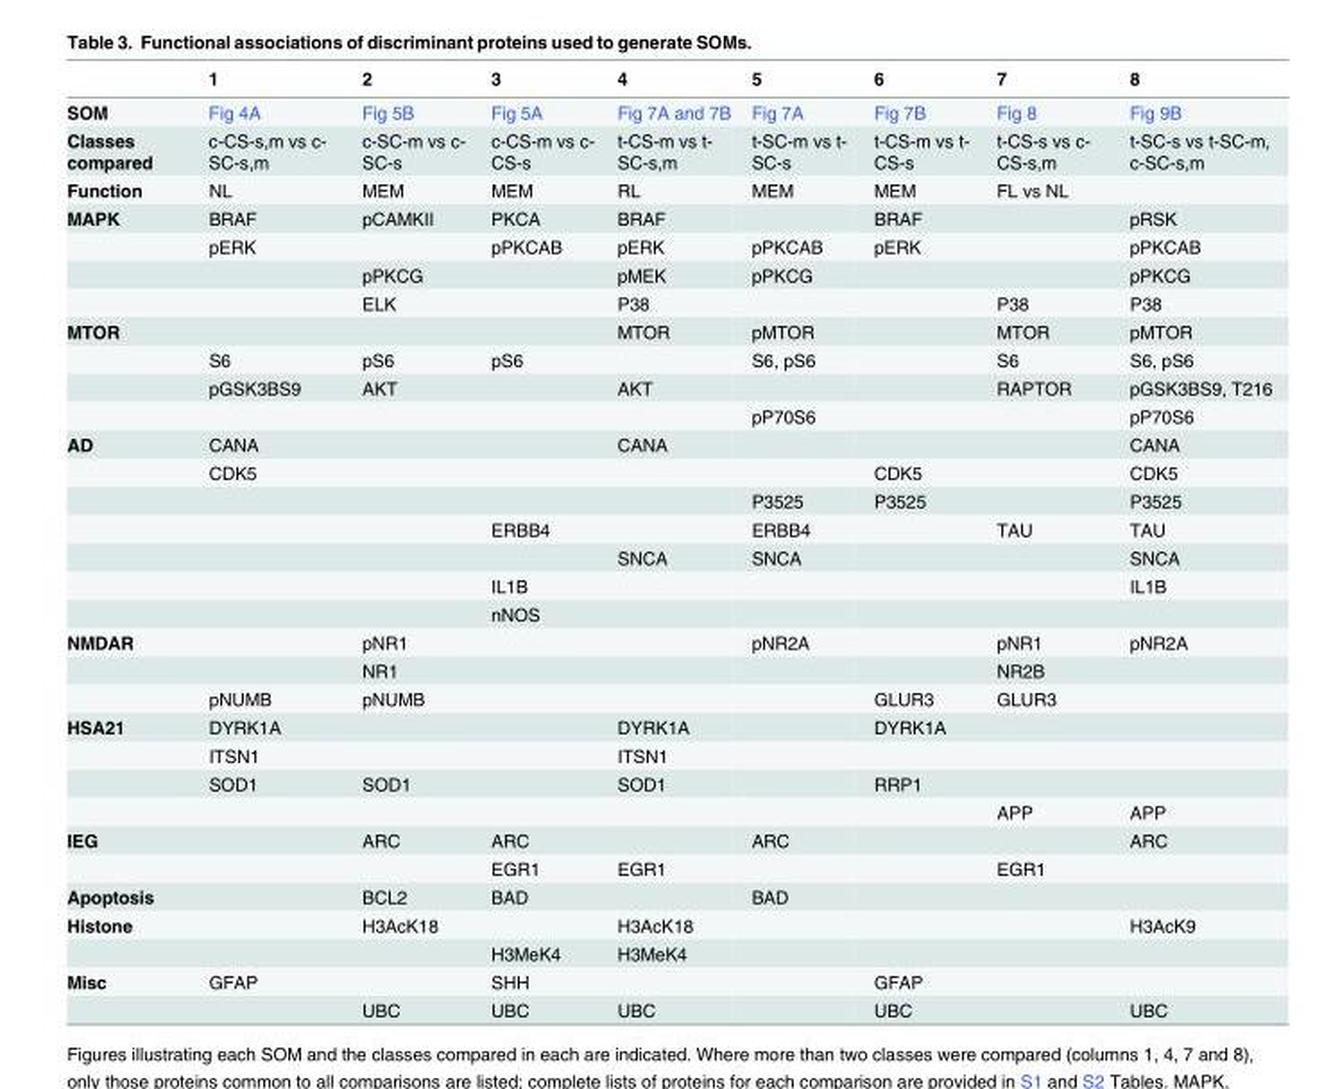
<table><thead><tr><td></td><td>1</td><td>2</td><td>3</td><td>4</td><td>5</td><td>6</td><td>7</td><td>8</td></tr></thead><tbody><tr><td>SOM</td><td>Fig 4A</td><td>Fig 5B</td><td>Fig 5A</td><td>Fig 7A and 7B</td><td>Fig 7A</td><td>Fig 7B</td><td>Fig 8</td><td>Fig 9B</td></tr><tr><td>Classes compared</td><td>c-CS-s,m vs c- SC-s,m</td><td>c-SC-m vs c- SC-s</td><td>c-CS-m vs c- CS-s</td><td>t-CS-m vs t- SC-s,m</td><td>t-SC-m vs t- SC-s</td><td>t-CS-m vs t- CS-s</td><td>t-CS-s vs c- CS-s,m</td><td>t-SC-s vs t-SC-m, c-SC-s,m</td></tr><tr><td>Function</td><td>NL</td><td>MEM</td><td>MEM</td><td>RL</td><td>MEM</td><td>MEM</td><td>FL vs NL</td><td></td></tr><tr><td rowspan="4">MAPK</td><td>BRAF</td><td>pCAMKII</td><td>PKCA</td><td>BRAF</td><td></td><td>BRAF</td><td></td><td>pRSK</td></tr><tr><td>pERK</td><td></td><td>pPKCAB</td><td>pERK</td><td>pPKCAB</td><td>pERK</td><td></td><td>pPKCAB</td></tr><tr><td></td><td>pPKCG</td><td></td><td>pMEK</td><td>pPKCG</td><td></td><td></td><td>pPKCG</td></tr><tr><td></td><td>ELK</td><td></td><td>P38</td><td></td><td></td><td>P38</td><td>P38</td></tr><tr><td rowspan="4">MTOR</td><td></td><td></td><td></td><td>MTOR</td><td>pMTOR</td><td></td><td>MTOR</td><td>pMTOR</td></tr><tr><td>S6</td><td>pS6</td><td>pS6</td><td></td><td>S6, pS6</td><td></td><td>S6</td><td>S6, pS6</td></tr><tr><td>pGSK3BS9</td><td>AKT</td><td></td><td>AKT</td><td></td><td></td><td>RAPTOR</td><td>pGSK3BS9, T216</td></tr><tr><td></td><td></td><td></td><td></td><td>pP70S6</td><td></td><td></td><td>pP70S6</td></tr><tr><td rowspan="7">AD</td><td>CANA</td><td></td><td></td><td>CANA</td><td></td><td></td><td></td><td>CANA</td></tr><tr><td>CDK5</td><td></td><td></td><td></td><td></td><td>CDK5</td><td></td><td>CDK5</td></tr><tr><td></td><td></td><td></td><td></td><td>P3525</td><td>P3525</td><td></td><td>P3525</td></tr><tr><td></td><td></td><td>ERBB4</td><td></td><td>ERBB4</td><td></td><td>TAU</td><td>TAU</td></tr><tr><td></td><td></td><td></td><td>SNCA</td><td>SNCA</td><td></td><td></td><td>SNCA</td></tr><tr><td></td><td></td><td>IL1B</td><td></td><td></td><td></td><td></td><td>IL1B</td></tr><tr><td></td><td></td><td>nNOS</td><td></td><td></td><td></td><td></td><td></td></tr><tr><td rowspan="3">NMDAR</td><td></td><td>pNR1</td><td></td><td></td><td>pNR2A</td><td></td><td>pNR1</td><td>pNR2A</td></tr><tr><td></td><td>NR1</td><td></td><td></td><td></td><td></td><td>NR2B</td><td></td></tr><tr><td>pNUMB</td><td>pNUMB</td><td></td><td></td><td></td><td>GLUR3</td><td>GLUR3</td><td></td></tr><tr><td rowspan="4">HSA21</td><td>DYRK1A</td><td></td><td></td><td>DYRK1A</td><td></td><td>DYRK1A</td><td></td><td></td></tr><tr><td>ITSN1</td><td></td><td></td><td>ITSN1</td><td></td><td></td><td></td><td></td></tr><tr><td>SOD1</td><td>SOD1</td><td></td><td>SOD1</td><td></td><td>RRP1</td><td></td><td></td></tr><tr><td></td><td></td><td></td><td></td><td></td><td></td><td>APP</td><td>APP</td></tr><tr><td rowspan="2">IEG</td><td></td><td>ARC</td><td>ARC</td><td></td><td>ARC</td><td></td><td></td><td>ARC</td></tr><tr><td></td><td></td><td>EGR1</td><td>EGR1</td><td></td><td></td><td>EGR1</td><td></td></tr><tr><td>Apoptosis</td><td></td><td>BCL2</td><td>BAD</td><td></td><td>BAD</td><td></td><td></td><td></td></tr><tr><td rowspan="2">Histone</td><td></td><td>H3AcK18</td><td></td><td>H3AcK18</td><td></td><td></td><td></td><td>H3AcK9</td></tr><tr><td></td><td></td><td>H3MeK4</td><td>H3MeK4</td><td></td><td></td><td></td><td></td></tr><tr><td rowspan="2">Misc</td><td>GFAP</td><td></td><td>SHH</td><td></td><td></td><td>GFAP</td><td></td><td></td></tr><tr><td></td><td>UBC</td><td>UBC</td><td>UBC</td><td></td><td>UBC</td><td></td><td>UBC</td></tr></tbody></table>